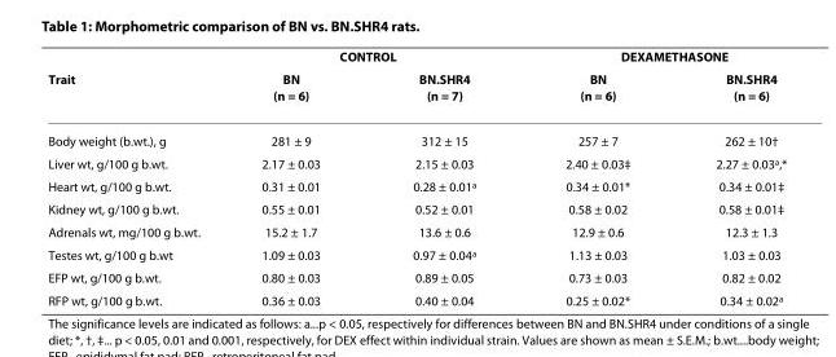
<table><thead><tr><td rowspan="2">Trait</td><td colspan="2">CONTROL</td><td colspan="2">DEXAMETHASONE</td></tr><tr><td>BN (n = 6)</td><td>BN.SHR4 (n = 7)</td><td>BN (n = 6)</td><td>BN.SHR4 (n = 6)</td></tr></thead><tbody><tr><td>Body weight (b.wt.), g</td><td>281 ± 9</td><td>312 ± 15</td><td>257 ± 7</td><td>262 ± 10†</td></tr><tr><td>Liver wt, g/100 g b.wt.</td><td>2.17 ± 0.03</td><td>2.15 ± 0.03</td><td>2.40 ± 0.03‡</td><td>2.27 ± 0.03<sup>a</sup>,*</td></tr><tr><td>Heart wt, g/100 g b.wt.</td><td>0.31 ± 0.01</td><td>0.28 ± 0.01<sup>a</sup></td><td>0.34 ± 0.01*</td><td>0.34 ± 0.01‡</td></tr><tr><td>Kidney wt, g/100 g b.wt.</td><td>0.55 ± 0.01</td><td>0.52 ± 0.01</td><td>0.58 ± 0.02</td><td>0.58 ± 0.01‡</td></tr><tr><td>Adrenals wt, mg/100 g b.wt.</td><td>15.2 ± 1.7</td><td>13.6 ± 0.6</td><td>12.9 ± 0.6</td><td>12.3 ± 1.3</td></tr><tr><td>Testes wt, g/100 g b.wt</td><td>1.09 ± 0.03</td><td>0.97 ± 0.04<sup>a</sup></td><td>1.13 ± 0.03</td><td>1.03 ± 0.03</td></tr><tr><td>EFP wt, g/100 g b.wt.</td><td>0.80 ± 0.03</td><td>0.89 ± 0.05</td><td>0.73 ± 0.03</td><td>0.82 ± 0.02</td></tr><tr><td>RFP wt, g/100 g b.wt.</td><td>0.36 ± 0.03</td><td>0.40 ± 0.04</td><td>0.25 ± 0.02*</td><td>0.34 ± 0.02<sup>a</sup></td></tr></tbody></table>